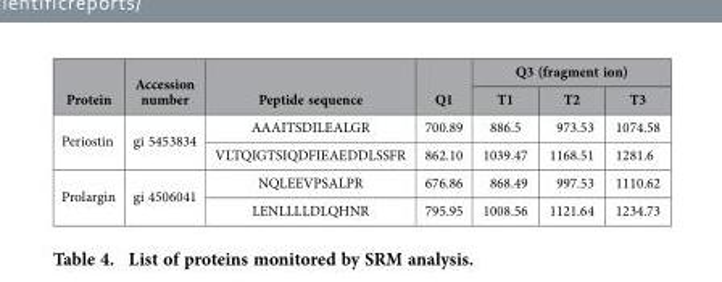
<table><thead><tr><td rowspan="2">Protein</td><td rowspan="2">Accession number</td><td rowspan="2">Peptide sequence</td><td rowspan="2">Q1</td><td colspan="3">Q3 (fragment ion)</td></tr><tr><td>T1</td><td>T2</td><td>T3</td></tr></thead><tbody><tr><td rowspan="2">Periostin</td><td rowspan="2">gi 5453834</td><td>AAAITSDILEALGR</td><td>700.89</td><td>886.5</td><td>973.53</td><td>1074.58</td></tr><tr><td>VLTQIGTSIQDFIEAEDDLSSFR</td><td>862.10</td><td>1039.47</td><td>1168.51</td><td>1281.6</td></tr><tr><td rowspan="2">Prolargin</td><td rowspan="2">gi 4506041</td><td>NQLEEVPSALPR</td><td>676.86</td><td>868.49</td><td>997.53</td><td>1110.62</td></tr><tr><td>LENLLLLDLQHNR</td><td>795.95</td><td>1008.56</td><td>1121.64</td><td>1234.73</td></tr></tbody></table>